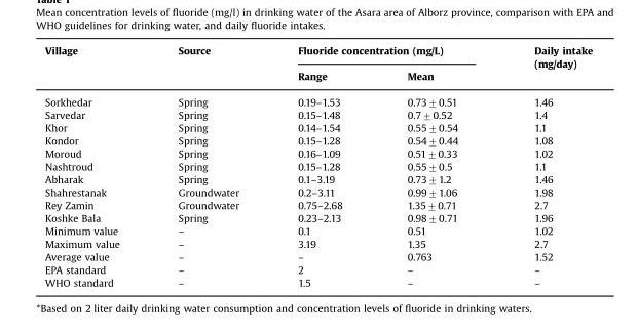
<table><thead><tr><td rowspan="2">Village</td><td rowspan="2">Source</td><td colspan="2">Fluoride concentration (mg/L)</td><td rowspan="2">Daily intake (mg/day)</td></tr><tr><td>Range</td><td>Mean</td></tr></thead><tbody><tr><td>Sorkhedar</td><td>Spring</td><td>0.19–1.53</td><td>0.73±0.51</td><td>1.46</td></tr><tr><td>Sarvedar</td><td>Spring</td><td>0.15–1.48</td><td>0.7±0.52</td><td>1.4</td></tr><tr><td>Khor</td><td>Spring</td><td>0.14–1.54</td><td>0.55±0.54</td><td>1.1</td></tr><tr><td>Kondor</td><td>Spring</td><td>0.15–1.28</td><td>0.54±0.44</td><td>1.08</td></tr><tr><td>Moroud</td><td>Spring</td><td>0.16–1.09</td><td>0.51±0.33</td><td>1.02</td></tr><tr><td>Nashtroud</td><td>Spring</td><td>0.15–1.28</td><td>0.55±0.5</td><td>1.1</td></tr><tr><td>Abharak</td><td>Spring</td><td>0.1–3.19</td><td>0.73±1.2</td><td>1.46</td></tr><tr><td>Shahrestanak</td><td>Groundwater</td><td>0.2–3.11</td><td>0.99±1.06</td><td>1.98</td></tr><tr><td>Rey Zamin</td><td>Groundwater</td><td>0.75–2.68</td><td>1.35±0.71</td><td>2.7</td></tr><tr><td>Koshke Bala</td><td>Spring</td><td>0.23–2.13</td><td>0.98±0.71</td><td>1.96</td></tr><tr><td>Minimum value</td><td>–</td><td>0.1</td><td>0.51</td><td>1.02</td></tr><tr><td>Maximum value</td><td>–</td><td>3.19</td><td>1.35</td><td>2.7</td></tr><tr><td>Average value</td><td>–</td><td>–</td><td>0.763</td><td>1.52</td></tr><tr><td>EPA standard</td><td>–</td><td>2</td><td>–</td><td>–</td></tr><tr><td>WHO standard</td><td>–</td><td>1.5</td><td>–</td><td>–</td></tr></tbody></table>